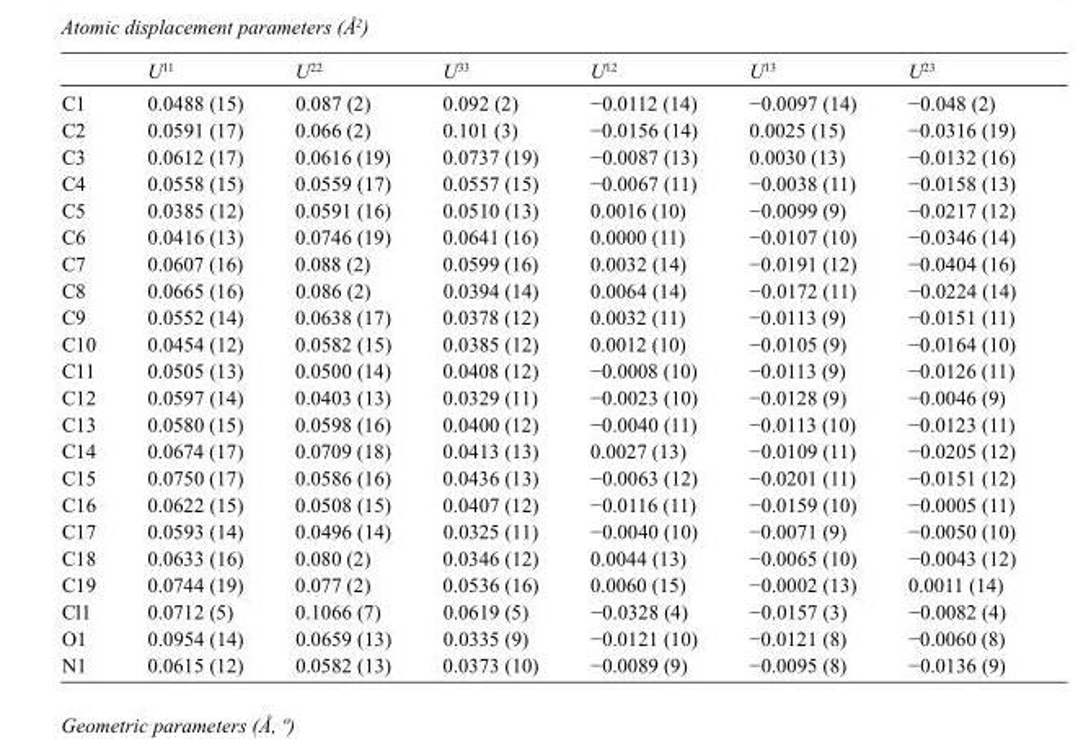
<table><thead><tr><td></td><td>U<sup>11</sup></td><td>U<sup>22</sup></td><td>U<sup>33</sup></td><td>U<sup>12</sup></td><td>U<sup>13</sup></td><td>U<sup>23</sup></td></tr></thead><tbody><tr><td>C1</td><td>0.0488 (15)</td><td>0.087 (2)</td><td>0.092 (2)</td><td>−0.0112 (14)</td><td>−0.0097 (14)</td><td>−0.048 (2)</td></tr><tr><td>C2</td><td>0.0591 (17)</td><td>0.066 (2)</td><td>0.101 (3)</td><td>−0.0156 (14)</td><td>0.0025 (15)</td><td>−0.0316 (19)</td></tr><tr><td>C3</td><td>0.0612 (17)</td><td>0.0616 (19)</td><td>0.0737 (19)</td><td>−0.0087 (13)</td><td>0.0030 (13)</td><td>−0.0132 (16)</td></tr><tr><td>C4</td><td>0.0558 (15)</td><td>0.0559 (17)</td><td>0.0557 (15)</td><td>−0.0067 (11)</td><td>−0.0038 (11)</td><td>−0.0158 (13)</td></tr><tr><td>C5</td><td>0.0385 (12)</td><td>0.0591 (16)</td><td>0.0510 (13)</td><td>0.0016 (10)</td><td>−0.0099 (9)</td><td>−0.0217 (12)</td></tr><tr><td>C6</td><td>0.0416 (13)</td><td>0.0746 (19)</td><td>0.0641 (16)</td><td>0.0000 (11)</td><td>−0.0107 (10)</td><td>−0.0346 (14)</td></tr><tr><td>C7</td><td>0.0607 (16)</td><td>0.088 (2)</td><td>0.0599 (16)</td><td>0.0032 (14)</td><td>−0.0191 (12)</td><td>−0.0404 (16)</td></tr><tr><td>C8</td><td>0.0665 (16)</td><td>0.086 (2)</td><td>0.0394 (14)</td><td>0.0064 (14)</td><td>−0.0172 (11)</td><td>−0.0224 (14)</td></tr><tr><td>C9</td><td>0.0552 (14)</td><td>0.0638 (17)</td><td>0.0378 (12)</td><td>0.0032 (11)</td><td>−0.0113 (9)</td><td>−0.0151 (11)</td></tr><tr><td>C10</td><td>0.0454 (12)</td><td>0.0582 (15)</td><td>0.0385 (12)</td><td>0.0012 (10)</td><td>−0.0105 (9)</td><td>−0.0164 (10)</td></tr><tr><td>C11</td><td>0.0505 (13)</td><td>0.0500 (14)</td><td>0.0408 (12)</td><td>−0.0008 (10)</td><td>−0.0113 (9)</td><td>−0.0126 (11)</td></tr><tr><td>C12</td><td>0.0597 (14)</td><td>0.0403 (13)</td><td>0.0329 (11)</td><td>−0.0023 (10)</td><td>−0.0128 (9)</td><td>−0.0046 (9)</td></tr><tr><td>C13</td><td>0.0580 (15)</td><td>0.0598 (16)</td><td>0.0400 (12)</td><td>−0.0040 (11)</td><td>−0.0113 (10)</td><td>−0.0123 (11)</td></tr><tr><td>C14</td><td>0.0674 (17)</td><td>0.0709 (18)</td><td>0.0413 (13)</td><td>0.0027 (13)</td><td>−0.0109 (11)</td><td>−0.0205 (12)</td></tr><tr><td>C15</td><td>0.0750 (17)</td><td>0.0586 (16)</td><td>0.0436 (13)</td><td>−0.0063 (12)</td><td>−0.0201 (11)</td><td>−0.0151 (12)</td></tr><tr><td>C16</td><td>0.0622 (15)</td><td>0.0508 (15)</td><td>0.0407 (12)</td><td>−0.0116 (11)</td><td>−0.0159 (10)</td><td>−0.0005 (11)</td></tr><tr><td>C17</td><td>0.0593 (14)</td><td>0.0496 (14)</td><td>0.0325 (11)</td><td>−0.0040 (10)</td><td>−0.0071 (9)</td><td>−0.0050 (10)</td></tr><tr><td>C18</td><td>0.0633 (16)</td><td>0.080 (2)</td><td>0.0346 (12)</td><td>0.0044 (13)</td><td>−0.0065 (10)</td><td>−0.0043 (12)</td></tr><tr><td>C19</td><td>0.0744 (19)</td><td>0.077 (2)</td><td>0.0536 (16)</td><td>0.0060 (15)</td><td>−0.0002 (13)</td><td>0.0011 (14)</td></tr><tr><td>Cl1</td><td>0.0712 (5)</td><td>0.1066 (7)</td><td>0.0619 (5)</td><td>−0.0328 (4)</td><td>−0.0157 (3)</td><td>−0.0082 (4)</td></tr><tr><td>O1</td><td>0.0954 (14)</td><td>0.0659 (13)</td><td>0.0335 (9)</td><td>−0.0121 (10)</td><td>−0.0121 (8)</td><td>−0.0060 (8)</td></tr><tr><td>N1</td><td>0.0615 (12)</td><td>0.0582 (13)</td><td>0.0373 (10)</td><td>−0.0089 (9)</td><td>−0.0095 (8)</td><td>−0.0136 (9)</td></tr></tbody></table>